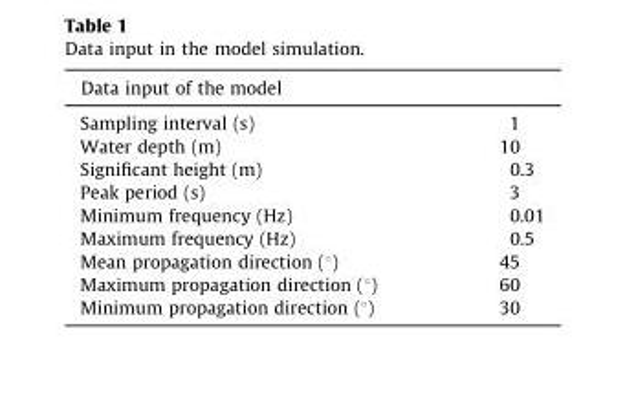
<table><thead><tr><td>Data input of the model</td><td></td></tr></thead><tbody><tr><td>Sampling interval (s)</td><td>1</td></tr><tr><td>Water depth (m)</td><td>10</td></tr><tr><td>Significant height (m)</td><td>0.3</td></tr><tr><td>Peak period (s)</td><td>3</td></tr><tr><td>Minimum frequency (Hz)</td><td>0.01</td></tr><tr><td>Maximum frequency (Hz)</td><td>0.5</td></tr><tr><td>Mean propagation direction (°)</td><td>45</td></tr><tr><td>Maximum propagation direction (°)</td><td>60</td></tr><tr><td>Minimum propagation direction (°)</td><td>30</td></tr></tbody></table>